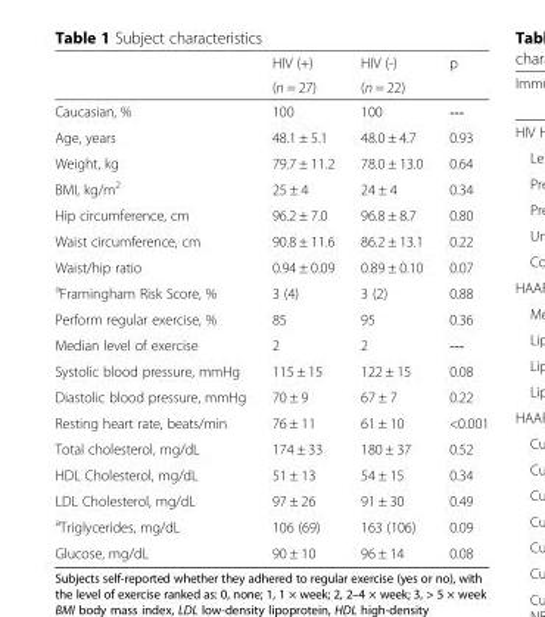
<table><thead><tr><td rowspan="2"></td><td rowspan="2">HIV (+) (n = 27)</td><td rowspan="2">HIV (-) (n = 22)</td><td rowspan="2">p</td></tr><tr></tr></thead><tbody><tr><td>Caucasian, %</td><td>100</td><td>100</td><td>---</td></tr><tr><td>Age, years</td><td>48.1 ± 5.1</td><td>48.0 ± 4.7</td><td>0.93</td></tr><tr><td>Weight, kg</td><td>79.7 ± 11.2</td><td>78.0 ± 13.0</td><td>0.64</td></tr><tr><td>BMI, kg/m<sup>2</sup></td><td>25 ± 4</td><td>24 ± 4</td><td>0.34</td></tr><tr><td>Hip circumference, cm</td><td>96.2 ± 7.0</td><td>96.8 ± 8.7</td><td>0.80</td></tr><tr><td>Waist circumference, cm</td><td>90.8 ± 11.6</td><td>86.2 ± 13.1</td><td>0.22</td></tr><tr><td>Waist/hip ratio</td><td>0.94 ± 0.09</td><td>0.89 ± 0.10</td><td>0.07</td></tr><tr><td><sup>a</sup>Framingham Risk Score, %</td><td>3 (4)</td><td>3 (2)</td><td>0.88</td></tr><tr><td>Perform regular exercise, %</td><td>85</td><td>95</td><td>0.36</td></tr><tr><td>Median level of exercise</td><td>2</td><td>2</td><td>---</td></tr><tr><td>Systolic blood pressure, mmHg</td><td>115 ± 15</td><td>122 ± 15</td><td>0.08</td></tr><tr><td>Diastolic blood pressure, mmHg</td><td>70 ± 9</td><td>67 ± 7</td><td>0.22</td></tr><tr><td>Resting heart rate, beats/min</td><td>76 ± 11</td><td>61 ± 10</td><td>&lt;0.001</td></tr><tr><td>Total cholesterol, mg/dL</td><td>174 ± 33</td><td>180 ± 37</td><td>0.52</td></tr><tr><td>HDL Cholesterol, mg/dL</td><td>51 ± 13</td><td>54 ± 15</td><td>0.34</td></tr><tr><td>LDL Cholesterol, mg/dL</td><td>97 ± 26</td><td>91 ± 30</td><td>0.49</td></tr><tr><td><sup>a</sup>Triglycerides, mg/dL</td><td>106 (69)</td><td>163 (106)</td><td>0.09</td></tr><tr><td>Glucose, mg/dL</td><td>90 ± 10</td><td>96 ± 14</td><td>0.08</td></tr></tbody></table>